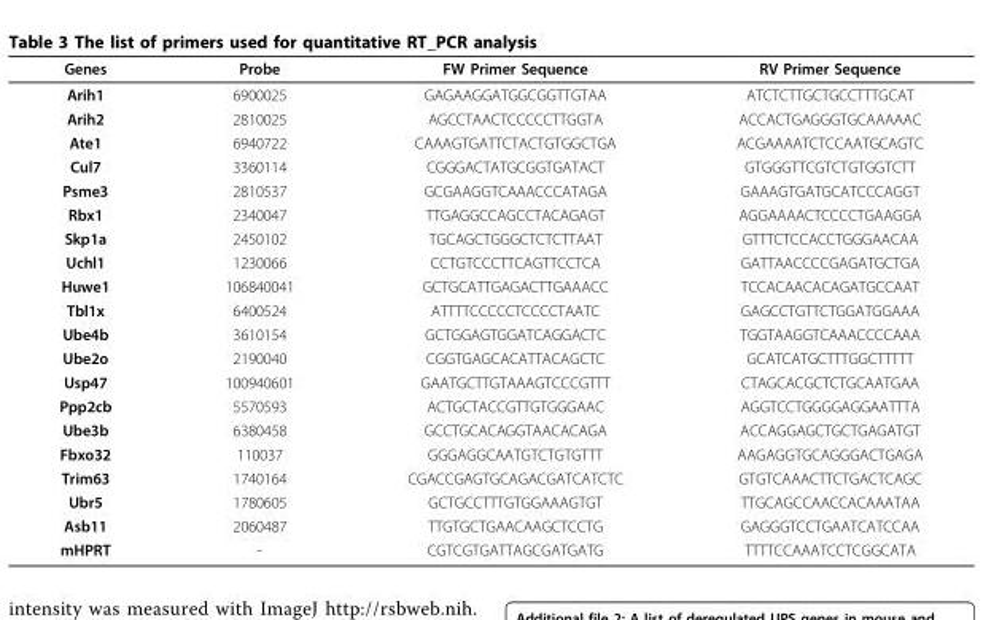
<table><thead><tr><td>Genes</td><td>Probe</td><td>FW Primer Sequence</td><td>RV Primer Sequence</td></tr></thead><tbody><tr><td>Arih1</td><td>6900025</td><td>GAGAAGGATGGCGGTTGTAA</td><td>ATCTCTTGCTGCCTTTGCAT</td></tr><tr><td>Arih2</td><td>2810025</td><td>AGCCTAACTCCCCCTTGGTA</td><td>ACCACTGAGGGTGCAAAAAC</td></tr><tr><td>Ate1</td><td>6940722</td><td>CAAAGTGATTCTACTGTGGCTGA</td><td>ACGAAAATCTCCAATGCAGTC</td></tr><tr><td>Cul7</td><td>3360114</td><td>CGGGACTATGCGGTGATACT</td><td>GTGGGTTCGTCTGTGGTCTT</td></tr><tr><td>Psme3</td><td>2810537</td><td>GCGAAGGTCAAACCCATAGA</td><td>GAAAGTGATGCATCCCAGGT</td></tr><tr><td>Rbx1</td><td>2340047</td><td>TTGAGGCCAGCCTACAGAGT</td><td>AGGAAAACTCCCCTGAAGGA</td></tr><tr><td>Skp1a</td><td>2450102</td><td>TGCAGCTGGGCTCTCTTAAT</td><td>GTTTCTCCACCTGGGAACAA</td></tr><tr><td>Uchl1</td><td>1230066</td><td>CCTGTCCCTTCAGTTCCTCA</td><td>GATTAACCCCGAGATGCTGA</td></tr><tr><td>Huwe1</td><td>106840041</td><td>GCTGCATTGAGACTTGAAACC</td><td>TCCACAACACAGATGCCAAT</td></tr><tr><td>Tbl1x</td><td>6400524</td><td>ATTTTCCCCCTCCCCTAATC</td><td>GAGCCTGTTCTGGATGGAAA</td></tr><tr><td>Ube4b</td><td>3610154</td><td>GCTGGAGTGGATCAGGACTC</td><td>TGGTAAGGTCAAACCCCAAA</td></tr><tr><td>Ube2o</td><td>2190040</td><td>CGGTGAGCACATTACAGCTC</td><td>GCATCATGCTTTGGCTTTTT</td></tr><tr><td>Usp47</td><td>100940601</td><td>GAATGCTTGTAAAGTCCCGTTT</td><td>CTAGCACGCTCTGCAATGAA</td></tr><tr><td>Ppp2cb</td><td>5570593</td><td>ACTGCTACCGTTGTGGGAAC</td><td>AGGTCCTGGGGAGGAATTTA</td></tr><tr><td>Ube3b</td><td>6380458</td><td>GCCTGCACAGGTAACACAGA</td><td>ACCAGGAGCTGCTGAGATGT</td></tr><tr><td>Fbxo32</td><td>110037</td><td>GGGAGGCAATGTCTGTGTTT</td><td>AAGAGGTGCAGGGACTGAGA</td></tr><tr><td>Trim63</td><td>1740164</td><td>CGACCGAGTGCAGACGATCATCTC</td><td>GTGTCAAACTTCTGACTCAGC</td></tr><tr><td>Ubr5</td><td>1780605</td><td>GCTGCCTTTGTGGAAAGTGT</td><td>TTGCAGCCAACCACAAATAA</td></tr><tr><td>Asb11</td><td>2060487</td><td>TTGTGCTGAACAAGCTCCTG</td><td>GAGGGTCCTGAATCATCCAA</td></tr><tr><td>mHPRT</td><td>-</td><td>CGTCGTGATTAGCGATGATG</td><td>TTTTCCAAATCCTCGGCATA</td></tr></tbody></table>